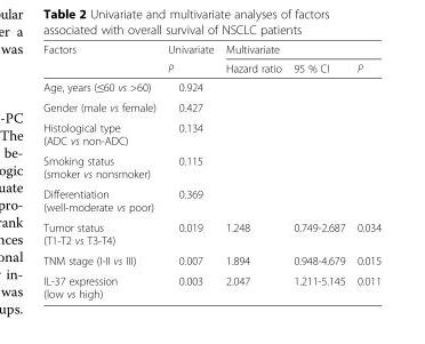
<table><thead><tr><td rowspan="2">Factors</td><td rowspan="2">Univariate P</td><td colspan="3">Multivariate</td></tr><tr><td>Hazard ratio</td><td>95 % CI</td><td>P</td></tr></thead><tbody><tr><td>Age, years (≤60 vs &gt;60)</td><td>0.924</td><td></td><td></td><td></td></tr><tr><td>Gender (male vs female)</td><td>0.427</td><td></td><td></td><td></td></tr><tr><td>Histological type (ADC vs non-ADC)</td><td>0.134</td><td></td><td></td><td></td></tr><tr><td>Smoking status (smoker vs nonsmoker)</td><td>0.115</td><td></td><td></td><td></td></tr><tr><td>Differentiation (well-moderate vs poor)</td><td>0.369</td><td></td><td></td><td></td></tr><tr><td>Tumor status (T1-T2 vs T3-T4)</td><td>0.019</td><td>1.248</td><td>0.749-2.687</td><td>0.034</td></tr><tr><td>TNM stage (I-II vs III)</td><td>0.007</td><td>1.894</td><td>0.948-4.679</td><td>0.015</td></tr><tr><td>IL-37 expression (low vs high)</td><td>0.003</td><td>2.047</td><td>1.211-5.145</td><td>0.011</td></tr></tbody></table>